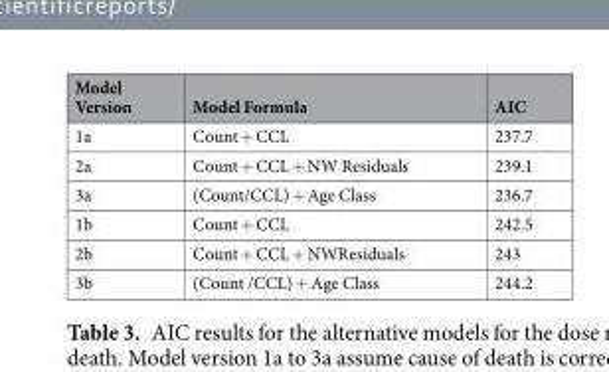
<table><thead><tr><td>Model Version</td><td>Model Formula</td><td>AIC</td></tr></thead><tbody><tr><td>1a</td><td>Count + CCL</td><td>237.7</td></tr><tr><td>2a</td><td>Count + CCL + NW Residuals</td><td>239.1</td></tr><tr><td>3a</td><td>(Count/CCL) + Age Class</td><td>236.7</td></tr><tr><td>1b</td><td>Count + CCL</td><td>242.5</td></tr><tr><td>2b</td><td>Count + CCL + NWResiduals</td><td>243</td></tr><tr><td>3b</td><td>(Count /CCL) + Age Class</td><td>244.2</td></tr></tbody></table>